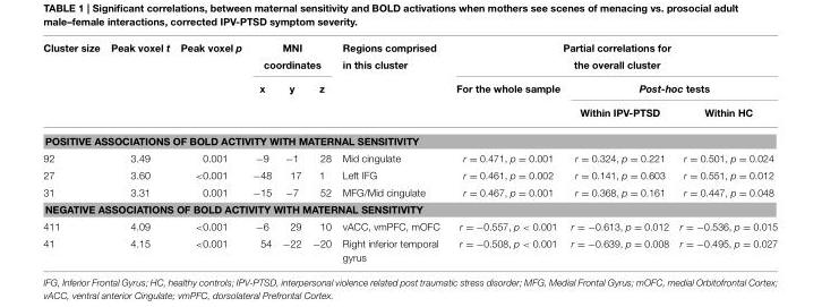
<table><thead><tr><td rowspan="3">Cluster size</td><td rowspan="3">Peak voxel t</td><td rowspan="3">Peak voxel p</td><td colspan="3">MNI coordinates</td><td rowspan="3">Regions comprised in this cluster</td><td colspan="3">Partial correlations for the overall cluster</td></tr><tr><td rowspan="2">x</td><td rowspan="2">y</td><td rowspan="2">z</td><td rowspan="2">For the whole sample</td><td colspan="2">Post-hoc tests</td></tr><tr><td>Within IPV-PTSD</td><td>Within HC</td></tr></thead><tbody><tr><td colspan="10">POSITIVE ASSOCIATIONS OF BOLD ACTIVITY WITH MATERNAL SENSITIVITY</td></tr><tr><td>92</td><td>3.49</td><td>0.001</td><td>−9</td><td>−1</td><td>28</td><td>Mid cingulate</td><td>r = 0.471, p = 0.001</td><td>r = 0.324, p = 0.221</td><td>r = 0.501, p = 0.024</td></tr><tr><td>27</td><td>3.60</td><td>&lt;0.001</td><td>−48</td><td>17</td><td>1</td><td>Left IFG</td><td>r = 0.461, p = 0.002</td><td>r = 0.141, p = 0.603</td><td>r = 0.551, p = 0.012</td></tr><tr><td>31</td><td>3.31</td><td>0.001</td><td>−15</td><td>−7</td><td>52</td><td>MFG/Mid cingulate</td><td>r = 0.467, p = 0.001</td><td>r = 0.368, p = 0.161</td><td>r = 0.447, p = 0.048</td></tr><tr><td colspan="10">NEGATIVE ASSOCIATIONS OF BOLD ACTIVITY WITH MATERNAL SENSITIVITY</td></tr><tr><td>411</td><td>4.09</td><td>&lt;0.001</td><td>−6</td><td>29</td><td>10</td><td>vACC, vmPFC, mOFC</td><td>r = −0.557, p &lt; 0.001</td><td>r = −0.613, p = 0.012</td><td>r = −0.536, p = 0.015</td></tr><tr><td>41</td><td>4.15</td><td>&lt;0.001</td><td>54</td><td>−22</td><td>−20</td><td>Right inferior temporal gyrus</td><td>r = −0.508, p &lt; 0.001</td><td>r = −0.639, p = 0.008</td><td>r = −0.495, p = 0.027</td></tr></tbody></table>